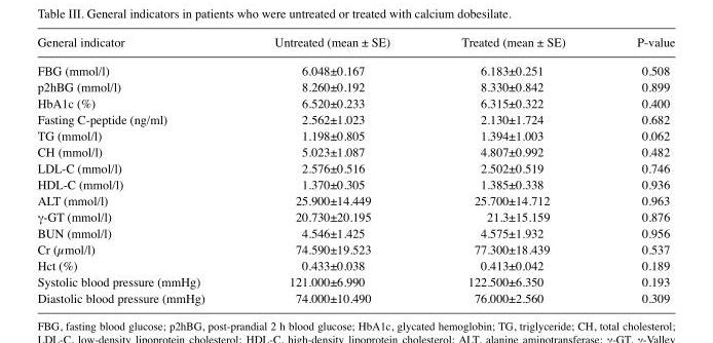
<table><thead><tr><td>General indicator</td><td>Untreated (mean ± SE)</td><td>Treated (mean ± SE)</td><td>P-value</td></tr></thead><tbody><tr><td>FBG (mmol/l)</td><td>6.048±0.167</td><td>6.183±0.251</td><td>0.508</td></tr><tr><td>p2hBG (mmol/l)</td><td>8.260±0.192</td><td>8.330±0.842</td><td>0.899</td></tr><tr><td>HbA1c (%)</td><td>6.520±0.233</td><td>6.315±0.322</td><td>0.400</td></tr><tr><td>Fasting C‑peptide (ng/ml)</td><td>2.562±1.023</td><td>2.130±1.724</td><td>0.682</td></tr><tr><td>TG (mmol/l)</td><td>1.198±0.805</td><td>1.394±1.003</td><td>0.062</td></tr><tr><td>CH (mmol/l)</td><td>5.023±1.087</td><td>4.807±0.992</td><td>0.482</td></tr><tr><td>LDL-C (mmol/l)</td><td>2.576±0.516</td><td>2.502±0.519</td><td>0.746</td></tr><tr><td>HDL-C (mmol/l)</td><td>1.370±0.305</td><td>1.385±0.338</td><td>0.936</td></tr><tr><td>ALT (mmol/l)</td><td>25.900±14.449</td><td>25.700±14.712</td><td>0.963</td></tr><tr><td>γ-GT (mmol/l)</td><td>20.730±20.195</td><td>21.3±15.159</td><td>0.876</td></tr><tr><td>BUN (mmol/l)</td><td>4.546±1.425</td><td>4.575±1.932</td><td>0.956</td></tr><tr><td>Cr (µmol/l)</td><td>74.590±19.523</td><td>77.300±18.439</td><td>0.537</td></tr><tr><td>Hct (%)</td><td>0.433±0.038</td><td>0.413±0.042</td><td>0.189</td></tr><tr><td>Systolic blood pressure (mmHg)</td><td>121.000±6.990</td><td>122.500±6.350</td><td>0.193</td></tr><tr><td>Diastolic blood pressure (mmHg)</td><td>74.000±10.490</td><td>76.000±2.560</td><td>0.309</td></tr></tbody></table>